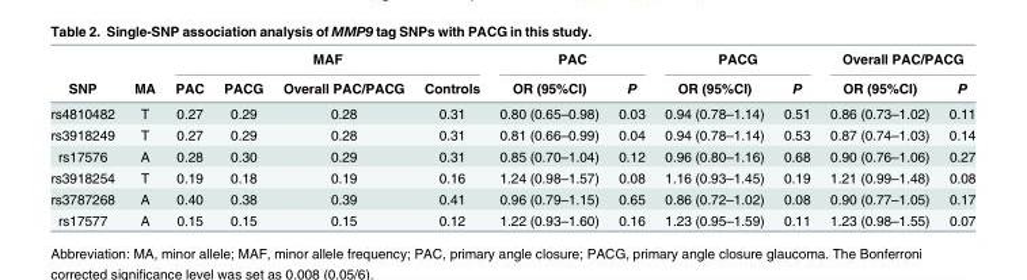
<table><thead><tr><td rowspan="2">SNP</td><td rowspan="2">MA</td><td colspan="4">MAF</td><td colspan="2">PAC</td><td colspan="2">PACG</td><td colspan="2">Overall PAC/PACG</td></tr><tr><td>PAC</td><td>PACG</td><td>Overall PAC/PACG</td><td>Controls</td><td>OR (95%CI)</td><td>P</td><td>OR (95%CI)</td><td>P</td><td>OR (95%CI)</td><td>P</td></tr></thead><tbody><tr><td>rs4810482</td><td>T</td><td>0.27</td><td>0.29</td><td>0.28</td><td>0.31</td><td>0.80 (0.65–0.98)</td><td>0.03</td><td>0.94 (0.78–1.14)</td><td>0.51</td><td>0.86 (0.73–1.02)</td><td>0.11</td></tr><tr><td>rs3918249</td><td>T</td><td>0.27</td><td>0.29</td><td>0.28</td><td>0.31</td><td>0.81 (0.66–0.99)</td><td>0.04</td><td>0.94 (0.78–1.14)</td><td>0.53</td><td>0.87 (0.74–1.03)</td><td>0.14</td></tr><tr><td>rs17576</td><td>A</td><td>0.28</td><td>0.30</td><td>0.29</td><td>0.31</td><td>0.85 (0.70–1.04)</td><td>0.12</td><td>0.96 (0.80–1.16)</td><td>0.68</td><td>0.90 (0.76–1.06)</td><td>0.27</td></tr><tr><td>rs3918254</td><td>T</td><td>0.19</td><td>0.18</td><td>0.19</td><td>0.16</td><td>1.24 (0.98–1.57)</td><td>0.08</td><td>1.16 (0.93–1.45)</td><td>0.19</td><td>1.21 (0.99–1.48)</td><td>0.08</td></tr><tr><td>rs3787268</td><td>A</td><td>0.40</td><td>0.38</td><td>0.39</td><td>0.41</td><td>0.96 (0.79–1.15)</td><td>0.65</td><td>0.86 (0.72–1.02)</td><td>0.08</td><td>0.90 (0.77–1.05)</td><td>0.17</td></tr><tr><td>rs17577</td><td>A</td><td>0.15</td><td>0.15</td><td>0.15</td><td>0.12</td><td>1.22 (0.93–1.60)</td><td>0.16</td><td>1.23 (0.95–1.59)</td><td>0.11</td><td>1.23 (0.98–1.55)</td><td>0.07</td></tr></tbody></table>